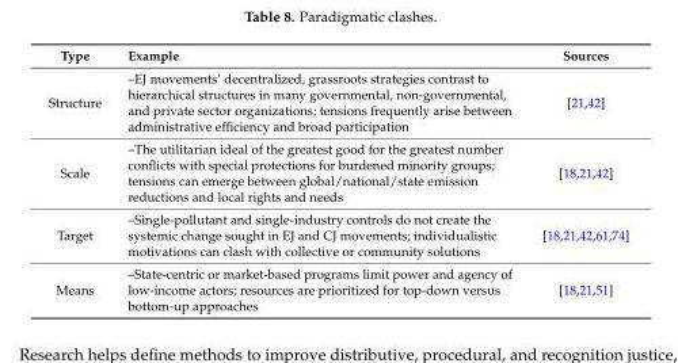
<table><thead><tr><td>Type</td><td>Example</td><td>Sources</td></tr></thead><tbody><tr><td>Structure</td><td>–EJ movements’ decentralized, grassroots strategies contrast to hierarchical structures in many governmental, non-governmental, and private sector organizations; tensions frequently arise between administrative efficiency and broad participation</td><td>[21,42]</td></tr><tr><td>Scale</td><td>–The utilitarian ideal of the greatest good for the greatest number conflicts with special protections for burdened minority groups; tensions can emerge between global/national/state emission reductions and local rights and needs</td><td>[18,21,42]</td></tr><tr><td>Target</td><td>–Single-pollutant and single-industry controls do not create the systemic change sought in EJ and CJ movements; individualistic motivations can clash with collective or community solutions</td><td>[18,21,42,61,74]</td></tr><tr><td>Means</td><td>–State-centric or market-based programs limit power and agency of low-income actors; resources are prioritized for top-down versus bottom-up approaches</td><td>[18,21,51]</td></tr></tbody></table>